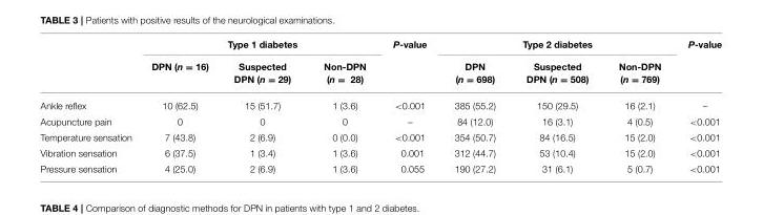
<table><thead><tr><td rowspan="2"></td><td colspan="3">Type 1 diabetes</td><td rowspan="2">P-value</td><td colspan="3">Type 2 diabetes</td><td rowspan="2">P-value</td></tr><tr><td>DPN (n = 16)</td><td>Suspected DPN (n = 29)</td><td>Non-DPN (n = 28)</td><td>DPN (n = 698)</td><td>Suspected DPN (n = 508)</td><td>Non-DPN (n = 769)</td></tr></thead><tbody><tr><td>Ankle reflex</td><td>10 (62.5)</td><td>15 (51.7)</td><td>1 (3.6)</td><td>&lt;0.001</td><td>385 (55.2)</td><td>150 (29.5)</td><td>16 (2.1)</td><td>–</td></tr><tr><td>Acupuncture pain</td><td>0</td><td>0</td><td>0</td><td>–</td><td>84 (12.0)</td><td>16 (3.1)</td><td>4 (0.5)</td><td>&lt;0.001</td></tr><tr><td>Temperature sensation</td><td>7 (43.8)</td><td>2 (6.9)</td><td>0 (0.0)</td><td>&lt;0.001</td><td>354 (50.7)</td><td>84 (16.5)</td><td>15 (2.0)</td><td>&lt;0.001</td></tr><tr><td>Vibration sensation</td><td>6 (37.5)</td><td>1 (3.4)</td><td>1 (3.6)</td><td>0.001</td><td>312 (44.7)</td><td>53 (10.4)</td><td>15 (2.0)</td><td>&lt;0.001</td></tr><tr><td>Pressure sensation</td><td>4 (25.0)</td><td>2 (6.9)</td><td>1 (3.6)</td><td>0.055</td><td>190 (27.2)</td><td>31 (6.1)</td><td>5 (0.7)</td><td>&lt;0.001</td></tr></tbody></table>